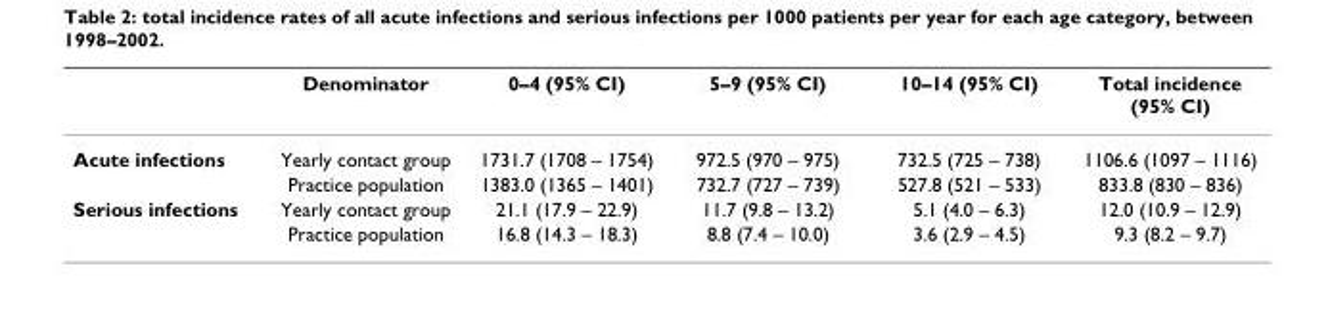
<table><thead><tr><td></td><td>Denominator</td><td>0–4 (95% CI)</td><td>5–9 (95% CI)</td><td>10–14 (95% CI)</td><td>Total incidence (95% CI)</td></tr></thead><tbody><tr><td rowspan="2">Acute infections</td><td>Yearly contact group</td><td>1731.7 (1708 – 1754)</td><td>972.5 (970 – 975)</td><td>732.5 (725 – 738)</td><td>1106.6 (1097 – 1116)</td></tr><tr><td>Practice population</td><td>1383.0 (1365 – 1401)</td><td>732.7 (727 – 739)</td><td>527.8 (521 – 533)</td><td>833.8 (830 – 836)</td></tr><tr><td rowspan="2">Serious infections</td><td>Yearly contact group</td><td>21.1 (17.9 – 22.9)</td><td>11.7 (9.8 – 13.2)</td><td>5.1 (4.0 – 6.3)</td><td>12.0 (10.9 – 12.9)</td></tr><tr><td>Practice population</td><td>16.8 (14.3 – 18.3)</td><td>8.8 (7.4 – 10.0)</td><td>3.6 (2.9 – 4.5)</td><td>9.3 (8.2 – 9.7)</td></tr></tbody></table>